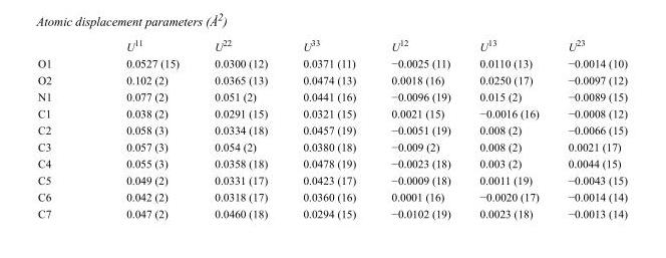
<table><thead><tr><td></td><td>U<sup>11</sup></td><td>U<sup>22</sup></td><td>U<sup>33</sup></td><td>U<sup>12</sup></td><td>U<sup>13</sup></td><td>U<sup>23</sup></td></tr></thead><tbody><tr><td>O1</td><td>0.0527 (15)</td><td>0.0300 (12)</td><td>0.0371 (11)</td><td>−0.0025 (11)</td><td>0.0110 (13)</td><td>−0.0014 (10)</td></tr><tr><td>O2</td><td>0.102 (2)</td><td>0.0365 (13)</td><td>0.0474 (13)</td><td>0.0018 (16)</td><td>0.0250 (17)</td><td>−0.0097 (12)</td></tr><tr><td>N1</td><td>0.077 (2)</td><td>0.051 (2)</td><td>0.0441 (16)</td><td>−0.0096 (19)</td><td>0.015 (2)</td><td>−0.0089 (15)</td></tr><tr><td>C1</td><td>0.038 (2)</td><td>0.0291 (15)</td><td>0.0321 (15)</td><td>0.0021 (15)</td><td>−0.0016 (16)</td><td>−0.0008 (12)</td></tr><tr><td>C2</td><td>0.058 (3)</td><td>0.0334 (18)</td><td>0.0457 (19)</td><td>−0.0051 (19)</td><td>0.008 (2)</td><td>−0.0066 (15)</td></tr><tr><td>C3</td><td>0.057 (3)</td><td>0.054 (2)</td><td>0.0380 (18)</td><td>−0.009 (2)</td><td>0.008 (2)</td><td>0.0021 (17)</td></tr><tr><td>C4</td><td>0.055 (3)</td><td>0.0358 (18)</td><td>0.0478 (19)</td><td>−0.0023 (18)</td><td>0.003 (2)</td><td>0.0044 (15)</td></tr><tr><td>C5</td><td>0.049 (2)</td><td>0.0331 (17)</td><td>0.0423 (17)</td><td>−0.0009 (18)</td><td>0.0011 (19)</td><td>−0.0043 (15)</td></tr><tr><td>C6</td><td>0.042 (2)</td><td>0.0318 (17)</td><td>0.0360 (16)</td><td>0.0001 (16)</td><td>−0.0020 (17)</td><td>−0.0014 (14)</td></tr><tr><td>C7</td><td>0.047 (2)</td><td>0.0460 (18)</td><td>0.0294 (15)</td><td>−0.0102 (19)</td><td>0.0023 (18)</td><td>−0.0013 (14)</td></tr></tbody></table>